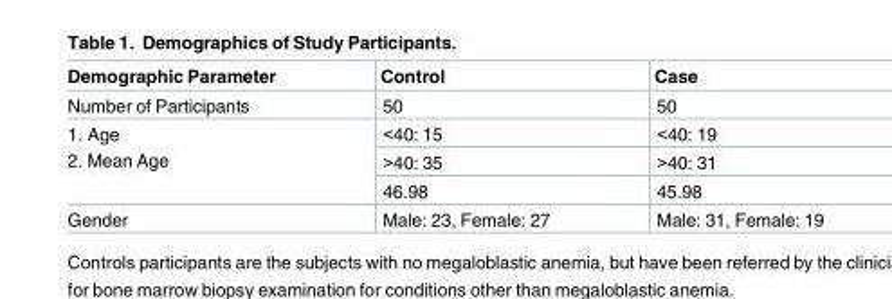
<table><thead><tr><td>Demographic Parameter</td><td>Control</td><td>Case</td></tr></thead><tbody><tr><td>Number of Participants</td><td>50</td><td>50</td></tr><tr><td rowspan="3">1. Age 2. Mean Age</td><td>&lt;40: 15</td><td>&lt;40: 19</td></tr><tr><td>&gt;40: 35</td><td>&gt;40: 31</td></tr><tr><td>46.98</td><td>45.98</td></tr><tr><td>Gender</td><td>Male: 23, Female: 27</td><td>Male: 31, Female: 19</td></tr></tbody></table>